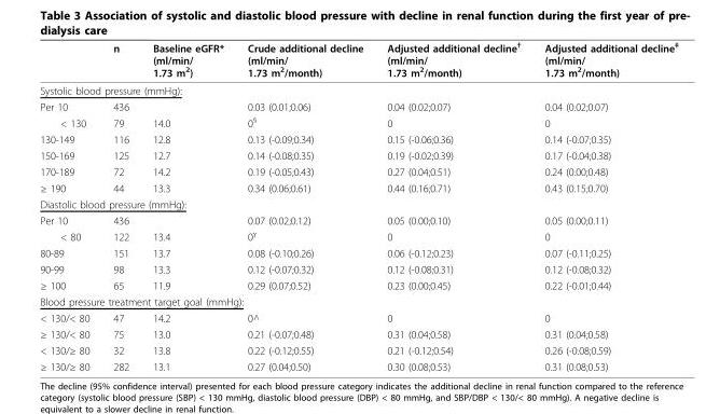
<table><thead><tr><td></td><td>n</td><td>Baseline eGFR* (ml/min/ 1.73 m<sup>2</sup>)</td><td>Crude additional decline (ml/min/ 1.73 m<sup>2</sup>/month)</td><td>Adjusted additional decline<sup>†</sup> (ml/min/ 1.73 m<sup>2</sup>/month)</td><td>Adjusted additional decline<sup>‡</sup> (ml/min/ 1.73 m<sup>2</sup>/month)</td></tr></thead><tbody><tr><td colspan="6">Systolic blood pressure (mmHg):</td></tr><tr><td>Per 10</td><td>436</td><td></td><td>0.03 (0.01;0.06)</td><td>0.04 (0.02;0.07)</td><td>0.04 (0.02;0.07)</td></tr><tr><td>&lt; 130</td><td>79</td><td>14.0</td><td>0<sup>§</sup></td><td>0</td><td>0</td></tr><tr><td>130-149</td><td>116</td><td>12.8</td><td>0.13 (-0.09;0.34)</td><td>0.15 (-0.06;0.36)</td><td>0.14 (-0.07;0.35)</td></tr><tr><td>150-169</td><td>125</td><td>12.7</td><td>0.14 (-0.08;0.35)</td><td>0.19 (-0.02;0.39)</td><td>0.17 (-0.04;0.38)</td></tr><tr><td>170-189</td><td>72</td><td>14.2</td><td>0.19 (-0.05;0.43)</td><td>0.27 (0.04;0.51)</td><td>0.24 (0.00;0.48)</td></tr><tr><td>≥ 190</td><td>44</td><td>13.3</td><td>0.34 (0.06;0.61)</td><td>0.44 (0.16;0.71)</td><td>0.43 (0.15;0.70)</td></tr><tr><td colspan="6">Diastolic blood pressure (mmHg):</td></tr><tr><td>Per 10</td><td>436</td><td></td><td>0.07 (0.02;0.12)</td><td>0.05 (0.00;0.10)</td><td>0.05 (0.00;0.11)</td></tr><tr><td>&lt; 80</td><td>122</td><td>13.4</td><td>0<sup>γ</sup></td><td>0</td><td>0</td></tr><tr><td>80-89</td><td>151</td><td>13.7</td><td>0.08 (-0.10;0.26)</td><td>0.06 (-0.12;0.23)</td><td>0.07 (-0.11;0.25)</td></tr><tr><td>90-99</td><td>98</td><td>13.3</td><td>0.12 (-0.07;0.32)</td><td>0.12 (-0.08;0.31)</td><td>0.12 (-0.08;0.32)</td></tr><tr><td>≥ 100</td><td>65</td><td>11.9</td><td>0.29 (0.07;0.52)</td><td>0.23 (0.00;0.45)</td><td>0.22 (-0.01;0.44)</td></tr><tr><td colspan="6">Blood pressure treatment target goal (mmHg):</td></tr><tr><td>&lt; 130/&lt; 80</td><td>47</td><td>14.2</td><td>0^</td><td>0</td><td>0</td></tr><tr><td>≥ 130/&lt; 80</td><td>75</td><td>13.0</td><td>0.21 (-0.07;0.48)</td><td>0.31 (0.04;0.58)</td><td>0.31 (0.04;0.58)</td></tr><tr><td>&lt; 130/≥ 80</td><td>32</td><td>13.8</td><td>0.22 (-0.12;0.55)</td><td>0.21 (-0.12;0.54)</td><td>0.26 (-0.08;0.59)</td></tr><tr><td>≥ 130/≥ 80</td><td>282</td><td>13.1</td><td>0.27 (0.04;0.50)</td><td>0.30 (0.08;0.53)</td><td>0.31 (0.08;0.53)</td></tr></tbody></table>